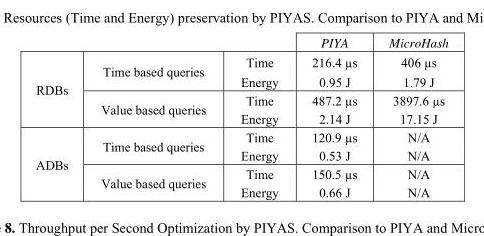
<table><thead><tr><td></td><td></td><td></td><td>PIYA</td><td>MicroHash</td></tr></thead><tbody><tr><td rowspan="2">RDBs</td><td>Time based queries</td><td>Time Energy</td><td>216.4 µs 0.95 J</td><td>406 µs 1.79 J</td></tr><tr><td>Value based queries</td><td>Time Energy</td><td>487.2 µs 2.14 J</td><td>3897.6 µs 17.15 J</td></tr><tr><td rowspan="2">ADBs</td><td>Time based queries</td><td>Time Energy</td><td>120.9 µs 0.53 J</td><td>N/A N/A</td></tr><tr><td>Value based queries</td><td>Time Energy</td><td>150.5 µs 0.66 J</td><td>N/A N/A</td></tr></tbody></table>